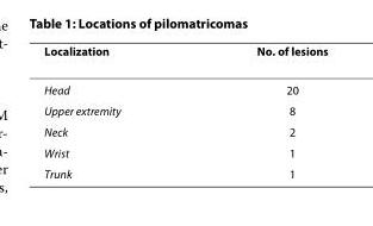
<table><thead><tr><td>Localization</td><td>No. of lesions</td></tr></thead><tbody><tr><td>Head</td><td>20</td></tr><tr><td>Upper extremity</td><td>8</td></tr><tr><td>Neck</td><td>2</td></tr><tr><td>Wrist</td><td>1</td></tr><tr><td>Trunk</td><td>1</td></tr></tbody></table>